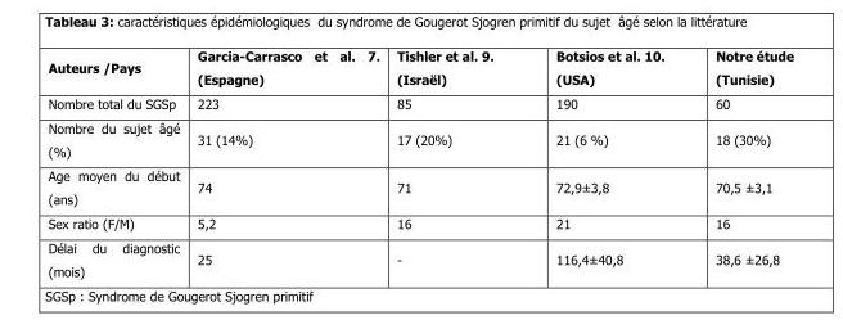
<table><thead><tr><td>Auteurs /Pays</td><td>Garcia-Carrasco et al. 7. (Espagne)</td><td>Tishler et al. 9. (Israël)</td><td>Botsios et al. 10. (USA)</td><td>Notre étude (Tunisie)</td></tr></thead><tbody><tr><td>Nombre total du SGSp</td><td>223</td><td>85</td><td>190</td><td>60</td></tr><tr><td>Nombre du sujet âgé (%)</td><td>31 (14%)</td><td>17 (20%)</td><td>21 (6 %)</td><td>18 (30%)</td></tr><tr><td>Age moyen du début (ans)</td><td>74</td><td>71</td><td>72,9±3,8</td><td>70,5 ±3,1</td></tr><tr><td>Sex ratio (F/M)</td><td>5,2</td><td>16</td><td>21</td><td>16</td></tr><tr><td>Délai du diagnostic (mois)</td><td>25</td><td>-</td><td>116,4±40,8</td><td>38,6 ±26,8</td></tr></tbody></table>